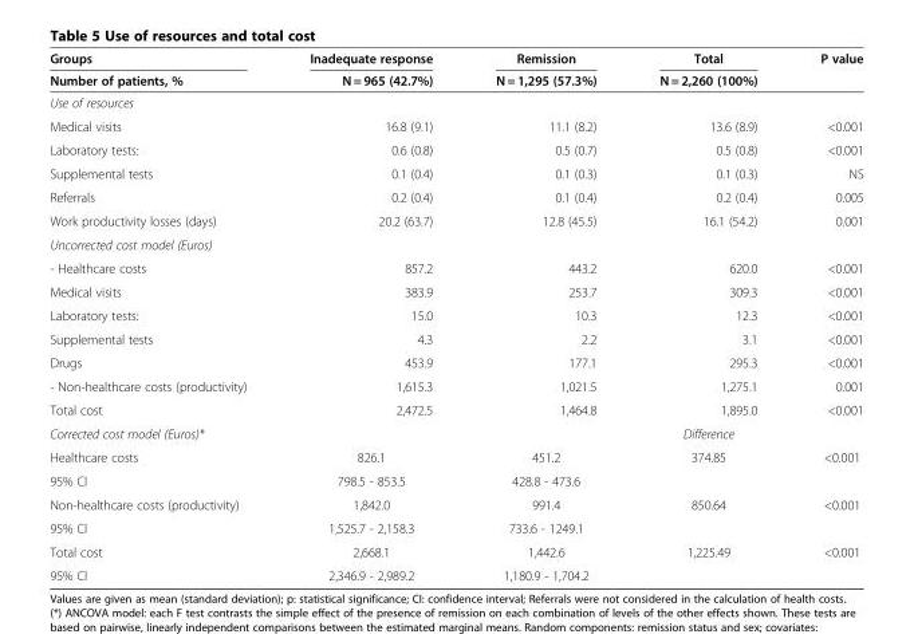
<table><thead><tr><td rowspan="2">Groups Number of patients, %</td><td rowspan="2">Inadequate response N = 965 (42.7%)</td><td rowspan="2">Remission N = 1,295 (57.3%)</td><td rowspan="2">Total N = 2,260 (100%)</td><td rowspan="2">P value</td></tr><tr></tr></thead><tbody><tr><td colspan="5">Use of resources</td></tr><tr><td>Medical visits</td><td>16.8 (9.1)</td><td>11.1 (8.2)</td><td>13.6 (8.9)</td><td>&lt;0.001</td></tr><tr><td>Laboratory tests:</td><td>0.6 (0.8)</td><td>0.5 (0.7)</td><td>0.5 (0.8)</td><td>&lt;0.001</td></tr><tr><td>Supplemental tests</td><td>0.1 (0.4)</td><td>0.1 (0.3)</td><td>0.1 (0.3)</td><td>NS</td></tr><tr><td>Referrals</td><td>0.2 (0.4)</td><td>0.1 (0.4)</td><td>0.2 (0.4)</td><td>0.005</td></tr><tr><td>Work productivity losses (days)</td><td>20.2 (63.7)</td><td>12.8 (45.5)</td><td>16.1 (54.2)</td><td>0.001</td></tr><tr><td colspan="5">Uncorrected cost model (Euros)</td></tr><tr><td>- Healthcare costs</td><td>857.2</td><td>443.2</td><td>620.0</td><td>&lt;0.001</td></tr><tr><td>Medical visits</td><td>383.9</td><td>253.7</td><td>309.3</td><td>&lt;0.001</td></tr><tr><td>Laboratory tests:</td><td>15.0</td><td>10.3</td><td>12.3</td><td>&lt;0.001</td></tr><tr><td>Supplemental tests</td><td>4.3</td><td>2.2</td><td>3.1</td><td>&lt;0.001</td></tr><tr><td>Drugs</td><td>453.9</td><td>177.1</td><td>295.3</td><td>&lt;0.001</td></tr><tr><td>- Non-healthcare costs (productivity)</td><td>1,615.3</td><td>1,021.5</td><td>1,275.1</td><td>0.001</td></tr><tr><td>Total cost</td><td>2,472.5</td><td>1,464.8</td><td>1,895.0</td><td>&lt;0.001</td></tr><tr><td>Corrected cost model (Euros)*</td><td></td><td></td><td>Difference</td><td></td></tr><tr><td>Healthcare costs</td><td>826.1</td><td>451.2</td><td>374.85</td><td>&lt;0.001</td></tr><tr><td>95% CI</td><td>798.5 - 853.5</td><td>428.8 - 473.6</td><td></td><td></td></tr><tr><td>Non-healthcare costs (productivity)</td><td>1,842.0</td><td>991.4</td><td>850.64</td><td>&lt;0.001</td></tr><tr><td>95% CI</td><td>1,525.7 - 2,158.3</td><td>733.6 - 1249.1</td><td></td><td></td></tr><tr><td>Total cost</td><td>2,668.1</td><td>1,442.6</td><td>1,225.49</td><td>&lt;0.001</td></tr><tr><td>95% CI</td><td>2,346.9 - 2,989.2</td><td>1,180.9 - 1,704.2</td><td></td><td></td></tr></tbody></table>